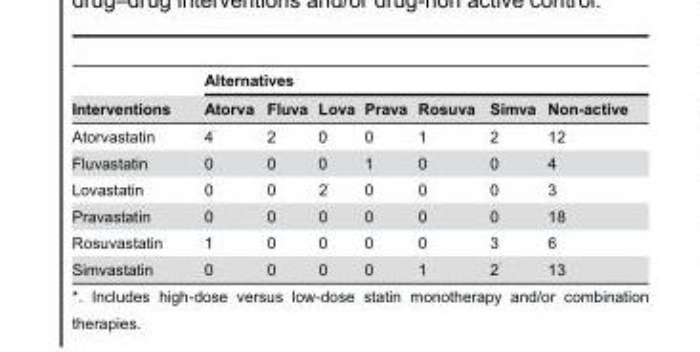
<table><thead><tr><td rowspan="2">Interventions</td><td colspan="7">Alternatives</td></tr><tr><td>Atorva</td><td>Fluva</td><td>Lova</td><td>Prava</td><td>Rosuva</td><td>Simva</td><td>Non-active</td></tr></thead><tbody><tr><td>Atorvastatin</td><td>4 *</td><td>2</td><td>0</td><td>0</td><td>1</td><td>2</td><td>12</td></tr><tr><td>Fluvastatin</td><td>0</td><td>0</td><td>0</td><td>1</td><td>0</td><td>0</td><td>4</td></tr><tr><td>Lovastatin</td><td>0</td><td>0</td><td>2 *</td><td>0</td><td>0</td><td>0</td><td>3</td></tr><tr><td>Pravastatin</td><td>0</td><td>0</td><td>0</td><td>0</td><td>0</td><td>0</td><td>18</td></tr><tr><td>Rosuvastatin</td><td>1</td><td>0</td><td>0</td><td>0</td><td>0</td><td>3</td><td>6</td></tr><tr><td>Simvastatin</td><td>0</td><td>0</td><td>0</td><td>0</td><td>1</td><td>2 *</td><td>13</td></tr></tbody></table>